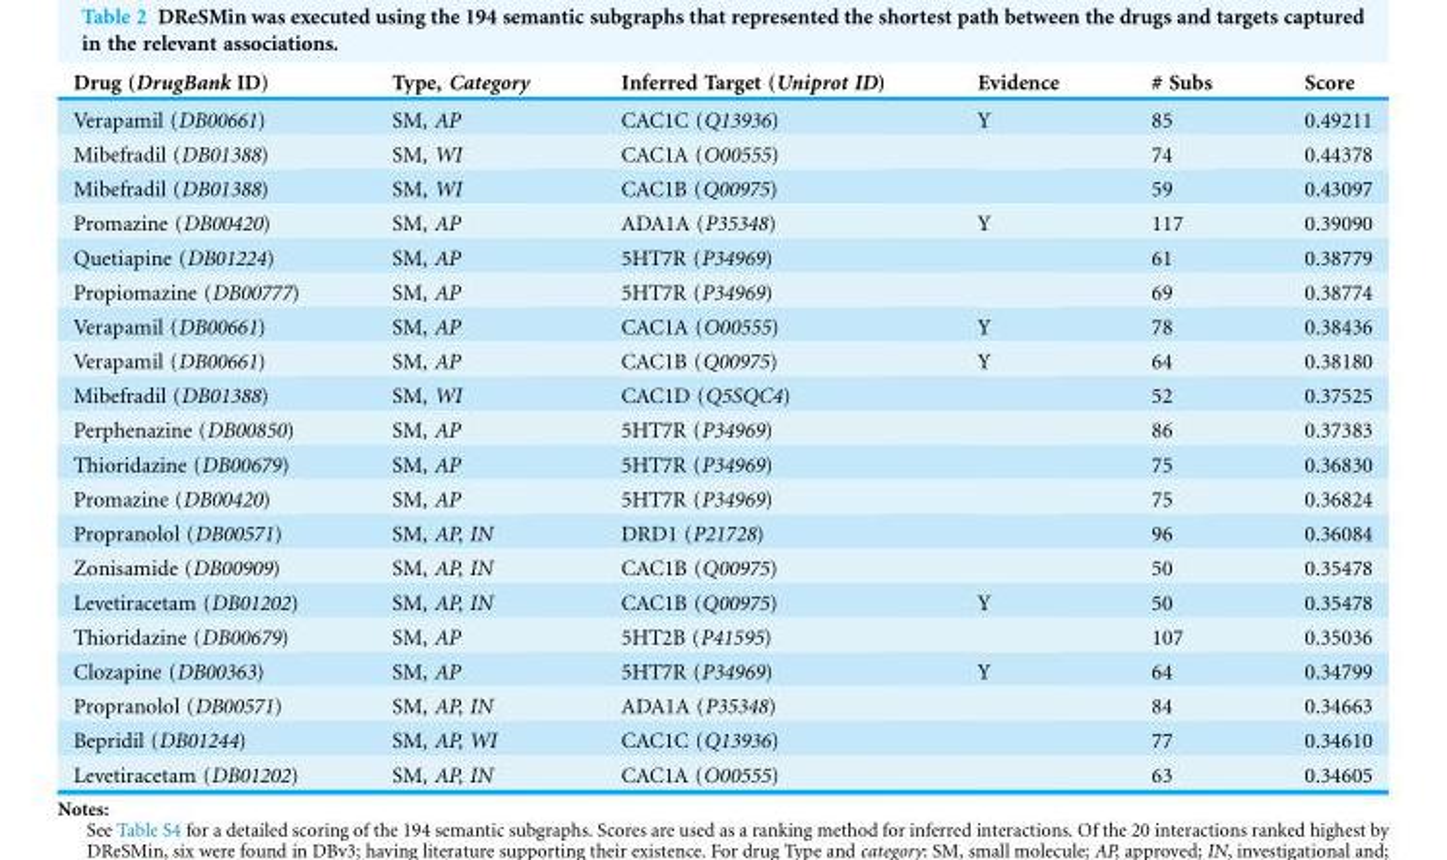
<table><thead><tr><td>Drug (DrugBank ID)</td><td>Type, Category</td><td>Inferred Target (Uniprot ID)</td><td>Evidence</td><td># Subs</td><td>Score</td></tr></thead><tbody><tr><td>Verapamil (DB00661)</td><td>SM, AP</td><td>CAC1C (Q13936)</td><td>Y</td><td>85</td><td>0.49211</td></tr><tr><td>Mibefradil (DB01388)</td><td>SM, WI</td><td>CAC1A (O00555)</td><td></td><td>74</td><td>0.44378</td></tr><tr><td>Mibefradil (DB01388)</td><td>SM, WI</td><td>CAC1B (Q00975)</td><td></td><td>59</td><td>0.43097</td></tr><tr><td>Promazine (DB00420)</td><td>SM, AP</td><td>ADA1A (P35348)</td><td>Y</td><td>117</td><td>0.39090</td></tr><tr><td>Quetiapine (DB01224)</td><td>SM, AP</td><td>5HT7R (P34969)</td><td></td><td>61</td><td>0.38779</td></tr><tr><td>Propiomazine (DB00777)</td><td>SM, AP</td><td>5HT7R (P34969)</td><td></td><td>69</td><td>0.38774</td></tr><tr><td>Verapamil (DB00661)</td><td>SM, AP</td><td>CAC1A (O00555)</td><td>Y</td><td>78</td><td>0.38436</td></tr><tr><td>Verapamil (DB00661)</td><td>SM, AP</td><td>CAC1B (Q00975)</td><td>Y</td><td>64</td><td>0.38180</td></tr><tr><td>Mibefradil (DB01388)</td><td>SM, WI</td><td>CAC1D (Q5SQC4)</td><td></td><td>52</td><td>0.37525</td></tr><tr><td>Perphenazine (DB00850)</td><td>SM, AP</td><td>5HT7R (P34969)</td><td></td><td>86</td><td>0.37383</td></tr><tr><td>Thioridazine (DB00679)</td><td>SM, AP</td><td>5HT7R (P34969)</td><td></td><td>75</td><td>0.36830</td></tr><tr><td>Promazine (DB00420)</td><td>SM, AP</td><td>5HT7R (P34969)</td><td></td><td>75</td><td>0.36824</td></tr><tr><td>Propranolol (DB00571)</td><td>SM, AP, IN</td><td>DRD1 (P21728)</td><td></td><td>96</td><td>0.36084</td></tr><tr><td>Zonisamide (DB00909)</td><td>SM, AP, IN</td><td>CAC1B (Q00975)</td><td></td><td>50</td><td>0.35478</td></tr><tr><td>Levetiracetam (DB01202)</td><td>SM, AP, IN</td><td>CAC1B (Q00975)</td><td>Y</td><td>50</td><td>0.35478</td></tr><tr><td>Thioridazine (DB00679)</td><td>SM, AP</td><td>5HT2B (P41595)</td><td></td><td>107</td><td>0.35036</td></tr><tr><td>Clozapine (DB00363)</td><td>SM, AP</td><td>5HT7R (P34969)</td><td>Y</td><td>64</td><td>0.34799</td></tr><tr><td>Propranolol (DB00571)</td><td>SM, AP, IN</td><td>ADA1A (P35348)</td><td></td><td>84</td><td>0.34663</td></tr><tr><td>Bepridil (DB01244)</td><td>SM, AP, WI</td><td>CAC1C (Q13936)</td><td></td><td>77</td><td>0.34610</td></tr><tr><td>Levetiracetam (DB01202)</td><td>SM, AP, IN</td><td>CAC1A (O00555)</td><td></td><td>63</td><td>0.34605</td></tr></tbody></table>